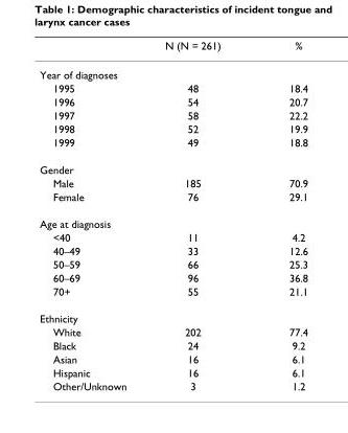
<table><thead><tr><td></td><td>N (N = 261)</td><td>%</td></tr></thead><tbody><tr><td colspan="3">Year of diagnoses</td></tr><tr><td>1995</td><td>48</td><td>18.4</td></tr><tr><td>1996</td><td>54</td><td>20.7</td></tr><tr><td>1997</td><td>58</td><td>22.2</td></tr><tr><td>1998</td><td>52</td><td>19.9</td></tr><tr><td>1999</td><td>49</td><td>18.8</td></tr><tr><td colspan="3">Gender</td></tr><tr><td>Male</td><td>185</td><td>70.9</td></tr><tr><td>Female</td><td>76</td><td>29.1</td></tr><tr><td colspan="3">Age at diagnosis</td></tr><tr><td>&lt;40</td><td>11</td><td>4.2</td></tr><tr><td>40–49</td><td>33</td><td>12.6</td></tr><tr><td>50–59</td><td>66</td><td>25.3</td></tr><tr><td>60–69</td><td>96</td><td>36.8</td></tr><tr><td>70+</td><td>55</td><td>21.1</td></tr><tr><td colspan="3">Ethnicity</td></tr><tr><td>White</td><td>202</td><td>77.4</td></tr><tr><td>Black</td><td>24</td><td>9.2</td></tr><tr><td>Asian</td><td>16</td><td>6.1</td></tr><tr><td>Hispanic</td><td>16</td><td>6.1</td></tr><tr><td>Other/Unknown</td><td>3</td><td>1.2</td></tr></tbody></table>